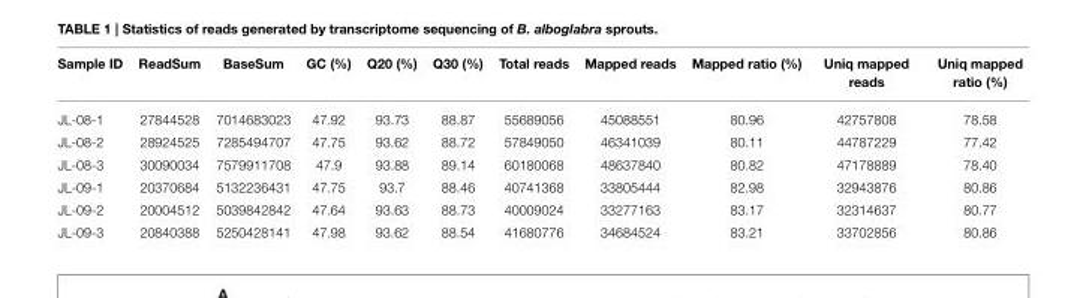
<table><thead><tr><td>Sample ID</td><td>ReadSum</td><td>BaseSum</td><td>GC (%)</td><td>Q20 (%)</td><td>Q30 (%)</td><td>Total reads</td><td>Mapped reads</td><td>Mapped ratio (%)</td><td>Uniq mapped reads</td><td>Uniq mapped ratio (%)</td></tr></thead><tbody><tr><td>JL-08-1</td><td>27844528</td><td>7014683023</td><td>47.92</td><td>93.73</td><td>88.87</td><td>55689056</td><td>45088551</td><td>80.96</td><td>42757808</td><td>78.58</td></tr><tr><td>JL-08-2</td><td>28924525</td><td>7285494707</td><td>47.75</td><td>93.62</td><td>88.72</td><td>57849050</td><td>46341039</td><td>80.11</td><td>44787229</td><td>77.42</td></tr><tr><td>JL-08-3</td><td>30090034</td><td>7579911708</td><td>47.9</td><td>93.88</td><td>89.14</td><td>60180068</td><td>48637840</td><td>80.82</td><td>47178889</td><td>78.40</td></tr><tr><td>JL-09-1</td><td>20370684</td><td>5132236431</td><td>47.75</td><td>93.7</td><td>88.46</td><td>40741368</td><td>33805444</td><td>82.98</td><td>32943876</td><td>80.86</td></tr><tr><td>JL-09-2</td><td>20004512</td><td>5039842842</td><td>47.64</td><td>93.63</td><td>88.73</td><td>40009024</td><td>33277163</td><td>83.17</td><td>32314637</td><td>80.77</td></tr><tr><td>JL-09-3</td><td>20840388</td><td>5250428141</td><td>47.98</td><td>93.62</td><td>88.54</td><td>41680776</td><td>34684524</td><td>83.21</td><td>33702856</td><td>80.86</td></tr></tbody></table>